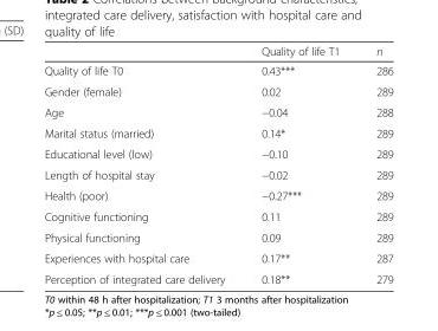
<table><thead><tr><td></td><td>Quality of life T1</td><td>n</td></tr></thead><tbody><tr><td>Quality of life T0</td><td>0.43***</td><td>286</td></tr><tr><td>Gender (female)</td><td>0.02</td><td>289</td></tr><tr><td>Age</td><td>−0.04</td><td>288</td></tr><tr><td>Marital status (married)</td><td>0.14*</td><td>289</td></tr><tr><td>Educational level (low)</td><td>−0.10</td><td>289</td></tr><tr><td>Length of hospital stay</td><td>−0.02</td><td>289</td></tr><tr><td>Health (poor)</td><td>−0.27***</td><td>289</td></tr><tr><td>Cognitive functioning</td><td>0.11</td><td>289</td></tr><tr><td>Physical functioning</td><td>0.09</td><td>289</td></tr><tr><td>Experiences with hospital care</td><td>0.17**</td><td>287</td></tr><tr><td>Perception of integrated care delivery</td><td>0.18**</td><td>279</td></tr></tbody></table>